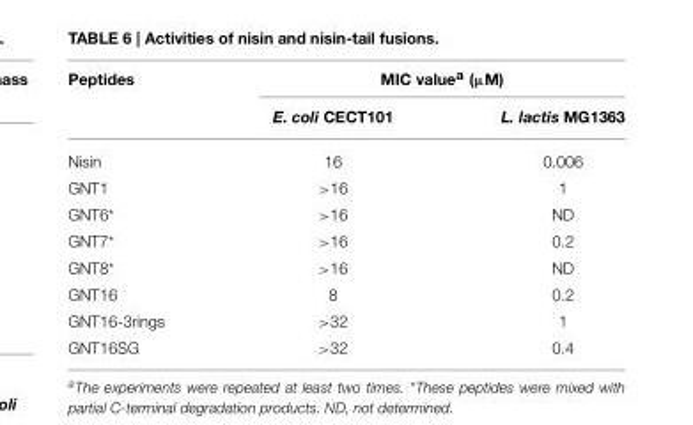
<table><thead><tr><td rowspan="2">Peptides</td><td colspan="2">MIC value<sup>a</sup> (µM)</td></tr><tr><td>E. coli CECT101</td><td>L. lactis MG1363</td></tr></thead><tbody><tr><td>Nisin</td><td>16</td><td>0.006</td></tr><tr><td>GNT1</td><td>&gt;16</td><td>1</td></tr><tr><td>GNT6*</td><td>&gt;16</td><td>ND</td></tr><tr><td>GNT7*</td><td>&gt;16</td><td>0.2</td></tr><tr><td>GNT8*</td><td>&gt;16</td><td>ND</td></tr><tr><td>GNT16</td><td>8</td><td>0.2</td></tr><tr><td>GNT16-3rings</td><td>&gt;32</td><td>1</td></tr><tr><td>GNT16SG</td><td>&gt;32</td><td>0.4</td></tr></tbody></table>